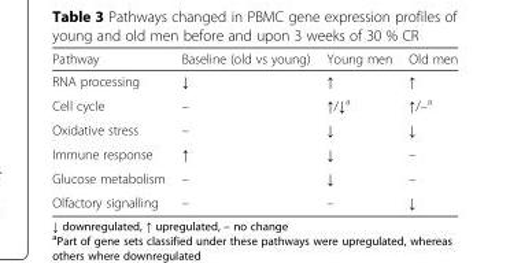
<table><thead><tr><td>Pathway</td><td>Baseline (old vs young)</td><td>Young men</td><td>Old men</td></tr></thead><tbody><tr><td>RNA processing</td><td>↓</td><td>↑</td><td>↑</td></tr><tr><td>Cell cycle</td><td>–</td><td>↑/↓<sup>a</sup></td><td>↑/–<sup>a</sup></td></tr><tr><td>Oxidative stress</td><td>–</td><td>↓</td><td>↓</td></tr><tr><td>Immune response</td><td>↑</td><td>↓</td><td>–</td></tr><tr><td>Glucose metabolism</td><td>–</td><td>↓</td><td>–</td></tr><tr><td>Olfactory signalling</td><td>–</td><td>–</td><td>↓</td></tr></tbody></table>